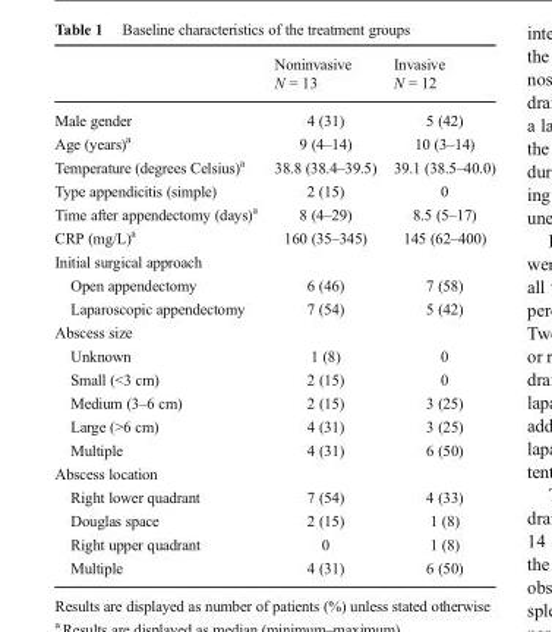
<table><thead><tr><td></td><td>Noninvasive N = 13</td><td>Invasive N = 12</td></tr></thead><tbody><tr><td>Male gender</td><td>4 (31)</td><td>5 (42)</td></tr><tr><td>Age (years)<sup>a</sup></td><td>9 (4–14)</td><td>10 (3–14)</td></tr><tr><td>Temperature (degrees Celsius)<sup>a</sup></td><td>38.8 (38.4–39.5)</td><td>39.1 (38.5–40.0)</td></tr><tr><td>Type appendicitis (simple)</td><td>2 (15)</td><td>0</td></tr><tr><td>Time after appendectomy (days)<sup>a</sup></td><td>8 (4–29)</td><td>8.5 (5–17)</td></tr><tr><td>CRP (mg/L)<sup>a</sup></td><td>160 (35–345)</td><td>145 (62–400)</td></tr><tr><td colspan="3">Initial surgical approach</td></tr><tr><td>Open appendectomy</td><td>6 (46)</td><td>7 (58)</td></tr><tr><td>Laparoscopic appendectomy</td><td>7 (54)</td><td>5 (42)</td></tr><tr><td colspan="3">Abscess size</td></tr><tr><td>Unknown</td><td>1 (8)</td><td>0</td></tr><tr><td>Small (&lt;3 cm)</td><td>2 (15)</td><td>0</td></tr><tr><td>Medium (3–6 cm)</td><td>2 (15)</td><td>3 (25)</td></tr><tr><td>Large (&gt;6 cm)</td><td>4 (31)</td><td>3 (25)</td></tr><tr><td>Multiple</td><td>4 (31)</td><td>6 (50)</td></tr><tr><td colspan="3">Abscess location</td></tr><tr><td>Right lower quadrant</td><td>7 (54)</td><td>4 (33)</td></tr><tr><td>Douglas space</td><td>2 (15)</td><td>1 (8)</td></tr><tr><td>Right upper quadrant</td><td>0</td><td>1 (8)</td></tr><tr><td>Multiple</td><td>4 (31)</td><td>6 (50)</td></tr></tbody></table>